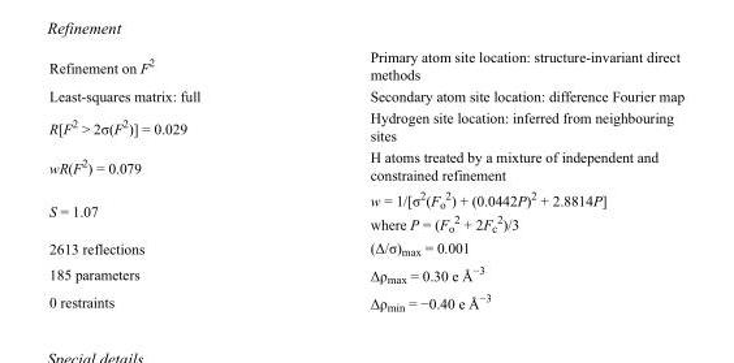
<table><tbody><tr><td>Refinement on F<sup>2</sup></td><td>Primary atom site location: structure-invariant direct methods</td></tr><tr><td>Least-squares matrix: full</td><td>Secondary atom site location: difference Fourier map</td></tr><tr><td>R[F<sup>2</sup> &gt; 2σ(F<sup>2</sup>)] = 0.029</td><td>Hydrogen site location: inferred from neighbouring sites</td></tr><tr><td>wR(F<sup>2</sup>) = 0.079</td><td>H atoms treated by a mixture of independent and constrained refinement</td></tr><tr><td>S = 1.07</td><td>w = 1/[σ<sup>2</sup>(F<sub>o</sub> <sup>2</sup>) + (0.0442P)<sup>2</sup> + 2.8814P] where P = (F<sub>o</sub> <sup>2</sup> + 2F<sub>c</sub> <sup>2</sup>)/3</td></tr><tr><td>2613 reflections</td><td>(Δ/σ)<sub>max</sub> = 0.001</td></tr><tr><td>185 parameters</td><td>Δρ<sub>max</sub> = 0.30 e Å<sup>−3</sup></td></tr><tr><td>0 restraints</td><td>Δρ<sub>min</sub> = −0.40 e Å<sup>−3</sup></td></tr></tbody></table>